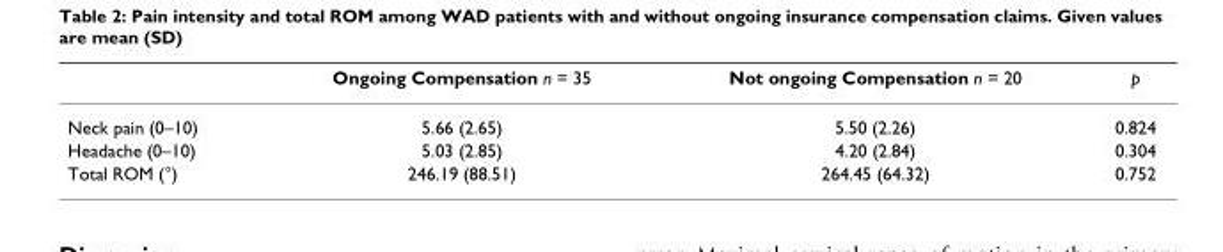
<table><thead><tr><td></td><td>Ongoing Compensation n = 35</td><td>Not ongoing Compensation n = 20</td><td>p</td></tr></thead><tbody><tr><td>Neck pain (0–10)</td><td>5.66 (2.65)</td><td>5.50 (2.26)</td><td>0.824</td></tr><tr><td>Headache (0–10)</td><td>5.03 (2.85)</td><td>4.20 (2.84)</td><td>0.304</td></tr><tr><td>Total ROM (°)</td><td>246.19 (88.51)</td><td>264.45 (64.32)</td><td>0.752</td></tr></tbody></table>